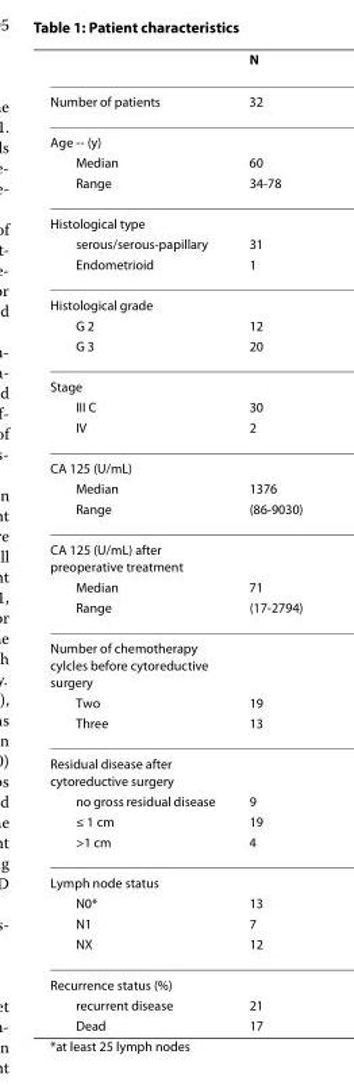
<table><thead><tr><td></td><td>N</td></tr></thead><tbody><tr><td>Number of patients</td><td>32</td></tr><tr><td colspan="2">Age -- (y)</td></tr><tr><td>Median</td><td>60</td></tr><tr><td>Range</td><td>34-78</td></tr><tr><td colspan="2">Histological type</td></tr><tr><td>serous/serous-papillary</td><td>31</td></tr><tr><td>Endometrioid</td><td>1</td></tr><tr><td colspan="2">Histological grade</td></tr><tr><td>G 2</td><td>12</td></tr><tr><td>G 3</td><td>20</td></tr><tr><td colspan="2">Stage</td></tr><tr><td>III C</td><td>30</td></tr><tr><td>IV</td><td>2</td></tr><tr><td colspan="2">CA 125 (U/mL)</td></tr><tr><td>Median</td><td>1376</td></tr><tr><td>Range</td><td>(86-9030)</td></tr><tr><td colspan="2">CA 125 (U/mL) after preoperative treatment</td></tr><tr><td>Median</td><td>71</td></tr><tr><td>Range</td><td>(17-2794)</td></tr><tr><td colspan="2">Number of chemotherapy cylcles before cytoreductive surgery</td></tr><tr><td>Two</td><td>19</td></tr><tr><td>Three</td><td>13</td></tr><tr><td colspan="2">Residual disease after cytoreductive surgery</td></tr><tr><td>no gross residual disease</td><td>9</td></tr><tr><td>≤ 1 cm</td><td>19</td></tr><tr><td>&gt;1 cm</td><td>4</td></tr><tr><td colspan="2">Lymph node status</td></tr><tr><td>N0*</td><td>13</td></tr><tr><td>N1</td><td>7</td></tr><tr><td>NX</td><td>12</td></tr><tr><td colspan="2">Recurrence status (%)</td></tr><tr><td>recurrent disease</td><td>21</td></tr><tr><td>Dead</td><td>17</td></tr></tbody></table>